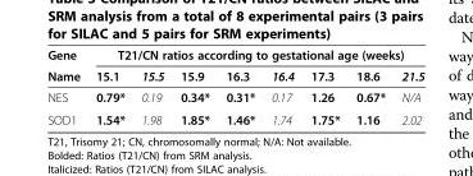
<table><thead><tr><td rowspan="2">Gene Name</td><td colspan="8">T21/CN ratios according to gestational age (weeks)</td></tr><tr><td>15.1</td><td>15.5</td><td>15.9</td><td>16.3</td><td>16.4</td><td>17.3</td><td>18.6</td><td>21.5</td></tr></thead><tbody><tr><td>NES</td><td>0.79*</td><td>0.19</td><td>0.34*</td><td>0.31*</td><td>0.17</td><td>1.26</td><td>0.67*</td><td>N/A</td></tr><tr><td>SOD1</td><td>1.54*</td><td>1.98</td><td>1.85*</td><td>1.46*</td><td>1.74</td><td>1.75*</td><td>1.16</td><td>2.02</td></tr></tbody></table>